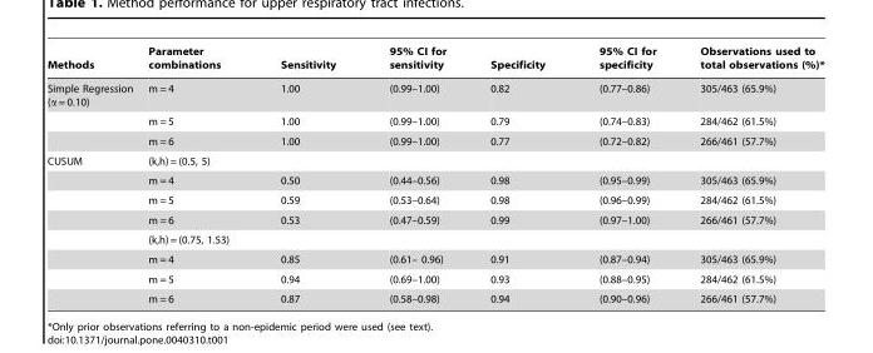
<table><thead><tr><td>Methods</td><td>Parameter combinations</td><td>Sensitivity</td><td>95% CI for sensitivity</td><td>Specificity</td><td>95% CI for specificity</td><td>Observations used to total observations (%)*</td></tr></thead><tbody><tr><td rowspan="3">Simple Regression (α = 0.10)</td><td>m = 4</td><td>1.00</td><td>(0.99–1.00)</td><td>0.82</td><td>(0.77–0.86)</td><td>305/463 (65.9%)</td></tr><tr><td>m = 5</td><td>1.00</td><td>(0.99–1.00)</td><td>0.79</td><td>(0.74–0.83)</td><td>284/462 (61.5%)</td></tr><tr><td>m = 6</td><td>1.00</td><td>(0.99–1.00)</td><td>0.77</td><td>(0.72–0.82)</td><td>266/461 (57.7%)</td></tr><tr><td rowspan="8">CUSUM</td><td>(k,h) = (0.5, 5)</td><td></td><td></td><td></td><td></td><td></td></tr><tr><td>m = 4</td><td>0.50</td><td>(0.44–0.56)</td><td>0.98</td><td>(0.95–0.99)</td><td>305/463 (65.9%)</td></tr><tr><td>m = 5</td><td>0.59</td><td>(0.53–0.64)</td><td>0.98</td><td>(0.96–0.99)</td><td>284/462 (61.5%)</td></tr><tr><td>m = 6</td><td>0.53</td><td>(0.47–0.59)</td><td>0.99</td><td>(0.97–1.00)</td><td>266/461 (57.7%)</td></tr><tr><td>(k,h) = (0.75, 1.53)</td><td></td><td></td><td></td><td></td><td></td></tr><tr><td>m = 4</td><td>0.85</td><td>(0.61– 0.96)</td><td>0.91</td><td>(0.87–0.94)</td><td>305/463 (65.9%)</td></tr><tr><td>m = 5</td><td>0.94</td><td>(0.69–1.00)</td><td>0.93</td><td>(0.88–0.95)</td><td>284/462 (61.5%)</td></tr><tr><td>m = 6</td><td>0.87</td><td>(0.58–0.98)</td><td>0.94</td><td>(0.90–0.96)</td><td>266/461 (57.7%)</td></tr></tbody></table>